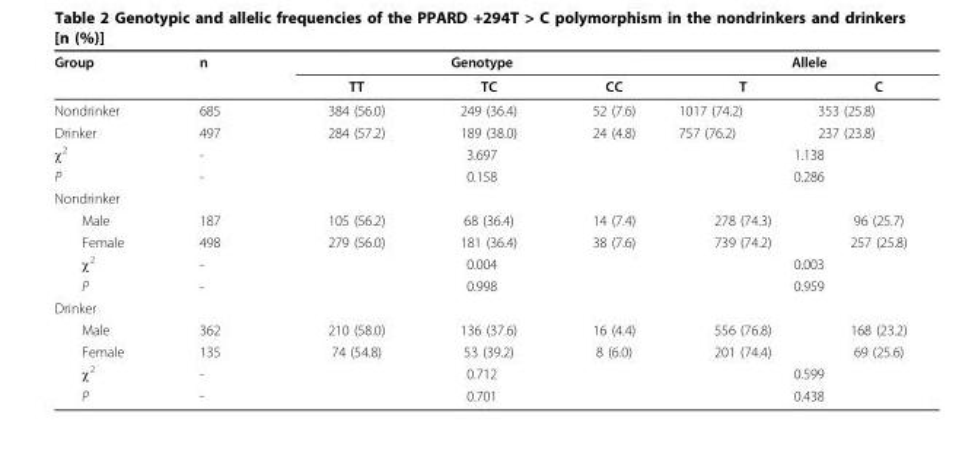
<table><thead><tr><td rowspan="2">Group</td><td rowspan="2">n</td><td colspan="3">Genotype</td><td colspan="2">Allele</td></tr><tr><td>TT</td><td>TC</td><td>CC</td><td>T</td><td>C</td></tr></thead><tbody><tr><td>Nondrinker</td><td>685</td><td>384 (56.0)</td><td>249 (36.4)</td><td>52 (7.6)</td><td>1017 (74.2)</td><td>353 (25.8)</td></tr><tr><td>Drinker</td><td>497</td><td>284 (57.2)</td><td>189 (38.0)</td><td>24 (4.8)</td><td>757 (76.2)</td><td>237 (23.8)</td></tr><tr><td>χ<sup>2</sup></td><td>-</td><td colspan="3">3.697</td><td colspan="2">1.138</td></tr><tr><td>P</td><td>-</td><td colspan="3">0.158</td><td colspan="2">0.286</td></tr><tr><td colspan="7">Nondrinker</td></tr><tr><td>Male</td><td>187</td><td>105 (56.2)</td><td>68 (36.4)</td><td>14 (7.4)</td><td>278 (74.3)</td><td>96 (25.7)</td></tr><tr><td>Female</td><td>498</td><td>279 (56.0)</td><td>181 (36.4)</td><td>38 (7.6)</td><td>739 (74.2)</td><td>257 (25.8)</td></tr><tr><td>χ<sup>2</sup></td><td>-</td><td colspan="3">0.004</td><td colspan="2">0.003</td></tr><tr><td>P</td><td>-</td><td colspan="3">0.998</td><td colspan="2">0.959</td></tr><tr><td colspan="7">Drinker</td></tr><tr><td>Male</td><td>362</td><td>210 (58.0)</td><td>136 (37.6)</td><td>16 (4.4)</td><td>556 (76.8)</td><td>168 (23.2)</td></tr><tr><td>Female</td><td>135</td><td>74 (54.8)</td><td>53 (39.2)</td><td>8 (6.0)</td><td>201 (74.4)</td><td>69 (25.6)</td></tr><tr><td>χ<sup>2</sup></td><td>-</td><td colspan="3">0.712</td><td colspan="2">0.599</td></tr><tr><td>P</td><td>-</td><td colspan="3">0.701</td><td colspan="2">0.438</td></tr></tbody></table>